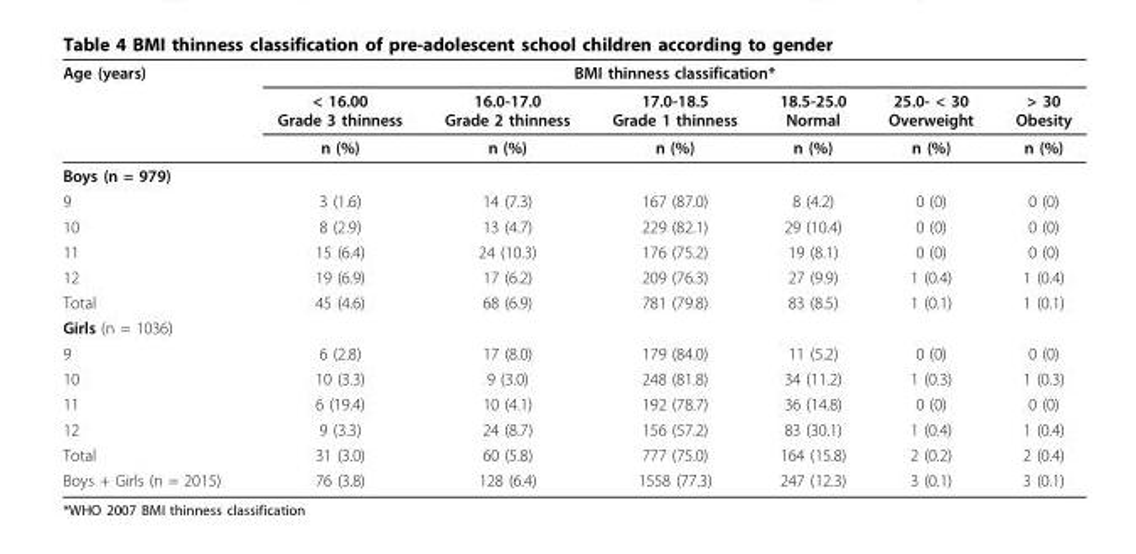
<table><thead><tr><td rowspan="3">Age (years)</td><td colspan="6">BMI thinness classification*</td></tr><tr><td rowspan="2">&lt; 16.00 Grade 3 thinness n (%)</td><td rowspan="2">16.0-17.0 Grade 2 thinness n (%)</td><td rowspan="2">17.0-18.5 Grade 1 thinness n (%)</td><td rowspan="2">18.5-25.0 Normal n (%)</td><td rowspan="2">25.0- &lt; 30 Overweight n (%)</td><td rowspan="2">&gt; 30 Obesity n (%)</td></tr><tr></tr></thead><tbody><tr><td colspan="7">Boys (n = 979)</td></tr><tr><td>9</td><td>3 (1.6)</td><td>14 (7.3)</td><td>167 (87.0)</td><td>8 (4.2)</td><td>0 (0)</td><td>0 (0)</td></tr><tr><td>10</td><td>8 (2.9)</td><td>13 (4.7)</td><td>229 (82.1)</td><td>29 (10.4)</td><td>0 (0)</td><td>0 (0)</td></tr><tr><td>11</td><td>15 (6.4)</td><td>24 (10.3)</td><td>176 (75.2)</td><td>19 (8.1)</td><td>0 (0)</td><td>0 (0)</td></tr><tr><td>12</td><td>19 (6.9)</td><td>17 (6.2)</td><td>209 (76.3)</td><td>27 (9.9)</td><td>1 (0.4)</td><td>1 (0.4)</td></tr><tr><td>Total</td><td>45 (4.6)</td><td>68 (6.9)</td><td>781 (79.8)</td><td>83 (8.5)</td><td>1 (0.1)</td><td>1 (0.1)</td></tr><tr><td colspan="7">Girls (n = 1036)</td></tr><tr><td>9</td><td>6 (2.8)</td><td>17 (8.0)</td><td>179 (84.0)</td><td>11 (5.2)</td><td>0 (0)</td><td>0 (0)</td></tr><tr><td>10</td><td>10 (3.3)</td><td>9 (3.0)</td><td>248 (81.8)</td><td>34 (11.2)</td><td>1 (0.3)</td><td>1 (0.3)</td></tr><tr><td>11</td><td>6 (19.4)</td><td>10 (4.1)</td><td>192 (78.7)</td><td>36 (14.8)</td><td>0 (0)</td><td>0 (0)</td></tr><tr><td>12</td><td>9 (3.3)</td><td>24 (8.7)</td><td>156 (57.2)</td><td>83 (30.1)</td><td>1 (0.4)</td><td>1 (0.4)</td></tr><tr><td>Total</td><td>31 (3.0)</td><td>60 (5.8)</td><td>777 (75.0)</td><td>164 (15.8)</td><td>2 (0.2)</td><td>2 (0.4)</td></tr><tr><td>Boys + Girls (n = 2015)</td><td>76 (3.8)</td><td>128 (6.4)</td><td>1558 (77.3)</td><td>247 (12.3)</td><td>3 (0.1)</td><td>3 (0.1)</td></tr></tbody></table>